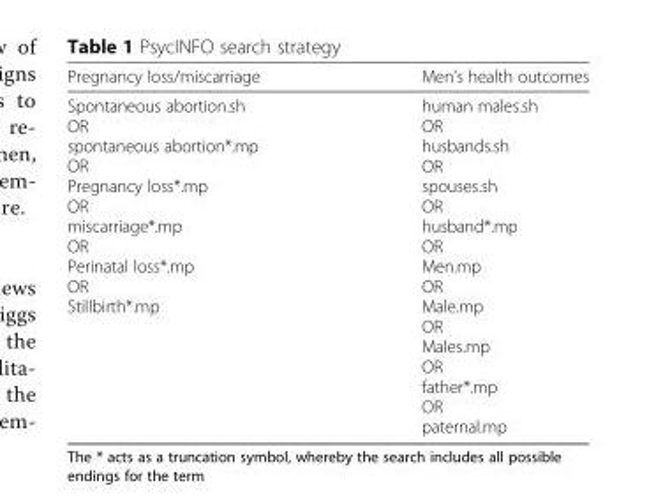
<table><thead><tr><td>Pregnancy loss/miscarriage</td><td>Men’s health outcomes</td></tr></thead><tbody><tr><td>Spontaneous abortion.sh OR spontaneous abortion*.mp OR Pregnancy loss*.mp OR miscarriage*.mp OR Perinatal loss*.mp OR Stillbirth*.mp</td><td>human males.sh OR husbands.sh OR spouses.sh OR husband*.mp OR Men.mp OR Male.mp OR Males.mp OR father*.mp OR paternal.mp</td></tr></tbody></table>